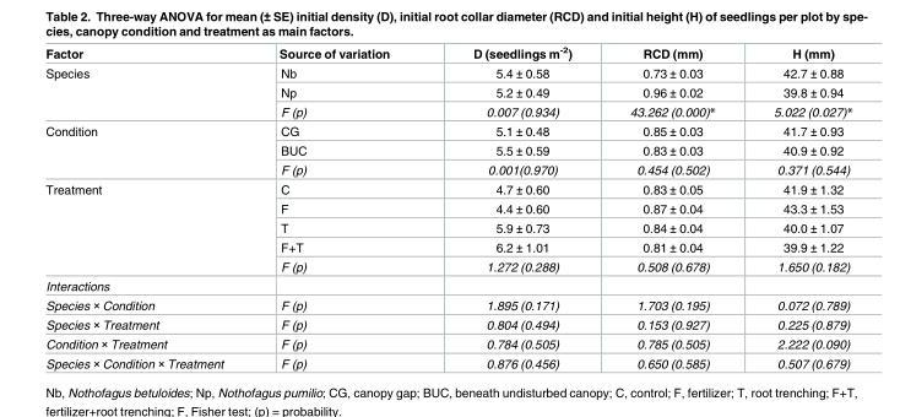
<table><thead><tr><td>Factor</td><td>Source of variation</td><td>D (seedlings m<sup>-2</sup>)</td><td>RCD (mm)</td><td>H (mm)</td></tr></thead><tbody><tr><td rowspan="3">Species</td><td>Nb</td><td>5.4 ± 0.58</td><td>0.73 ± 0.03</td><td>42.7 ± 0.88</td></tr><tr><td>Np</td><td>5.2 ± 0.49</td><td>0.96 ± 0.02</td><td>39.8 ± 0.94</td></tr><tr><td>F (p)</td><td>0.007 (0.934)</td><td>43.262 (0.000)*</td><td>5.022 (0.027)*</td></tr><tr><td rowspan="3">Condition</td><td>CG</td><td>5.1 ± 0.48</td><td>0.85 ± 0.03</td><td>41.7 ± 0.93</td></tr><tr><td>BUC</td><td>5.5 ± 0.59</td><td>0.83 ± 0.03</td><td>40.9 ± 0.92</td></tr><tr><td>F (p)</td><td>0.001(0.970)</td><td>0.454 (0.502)</td><td>0.371 (0.544)</td></tr><tr><td rowspan="5">Treatment</td><td>C</td><td>4.7 ± 0.60</td><td>0.83 ± 0.05</td><td>41.9 ± 1.32</td></tr><tr><td>F</td><td>4.4 ± 0.60</td><td>0.87 ± 0.04</td><td>43.3 ± 1.53</td></tr><tr><td>T</td><td>5.9 ± 0.73</td><td>0.84 ± 0.04</td><td>40.0 ± 1.07</td></tr><tr><td>F+T</td><td>6.2 ± 1.01</td><td>0.81 ± 0.04</td><td>39.9 ± 1.22</td></tr><tr><td>F (p)</td><td>1.272 (0.288)</td><td>0.508 (0.678)</td><td>1.650 (0.182)</td></tr><tr><td colspan="5">Interactions</td></tr><tr><td>Species × Condition</td><td>F (p)</td><td>1.895 (0.171)</td><td>1.703 (0.195)</td><td>0.072 (0.789)</td></tr><tr><td>Species × Treatment</td><td>F (p)</td><td>0.804 (0.494)</td><td>0.153 (0.927)</td><td>0.225 (0.879)</td></tr><tr><td>Condition × Treatment</td><td>F (p)</td><td>0.784 (0.505)</td><td>0.785 (0.505)</td><td>2.222 (0.090)</td></tr><tr><td>Species × Condition × Treatment</td><td>F (p)</td><td>0.876 (0.456)</td><td>0.650 (0.585)</td><td>0.507 (0.679)</td></tr></tbody></table>